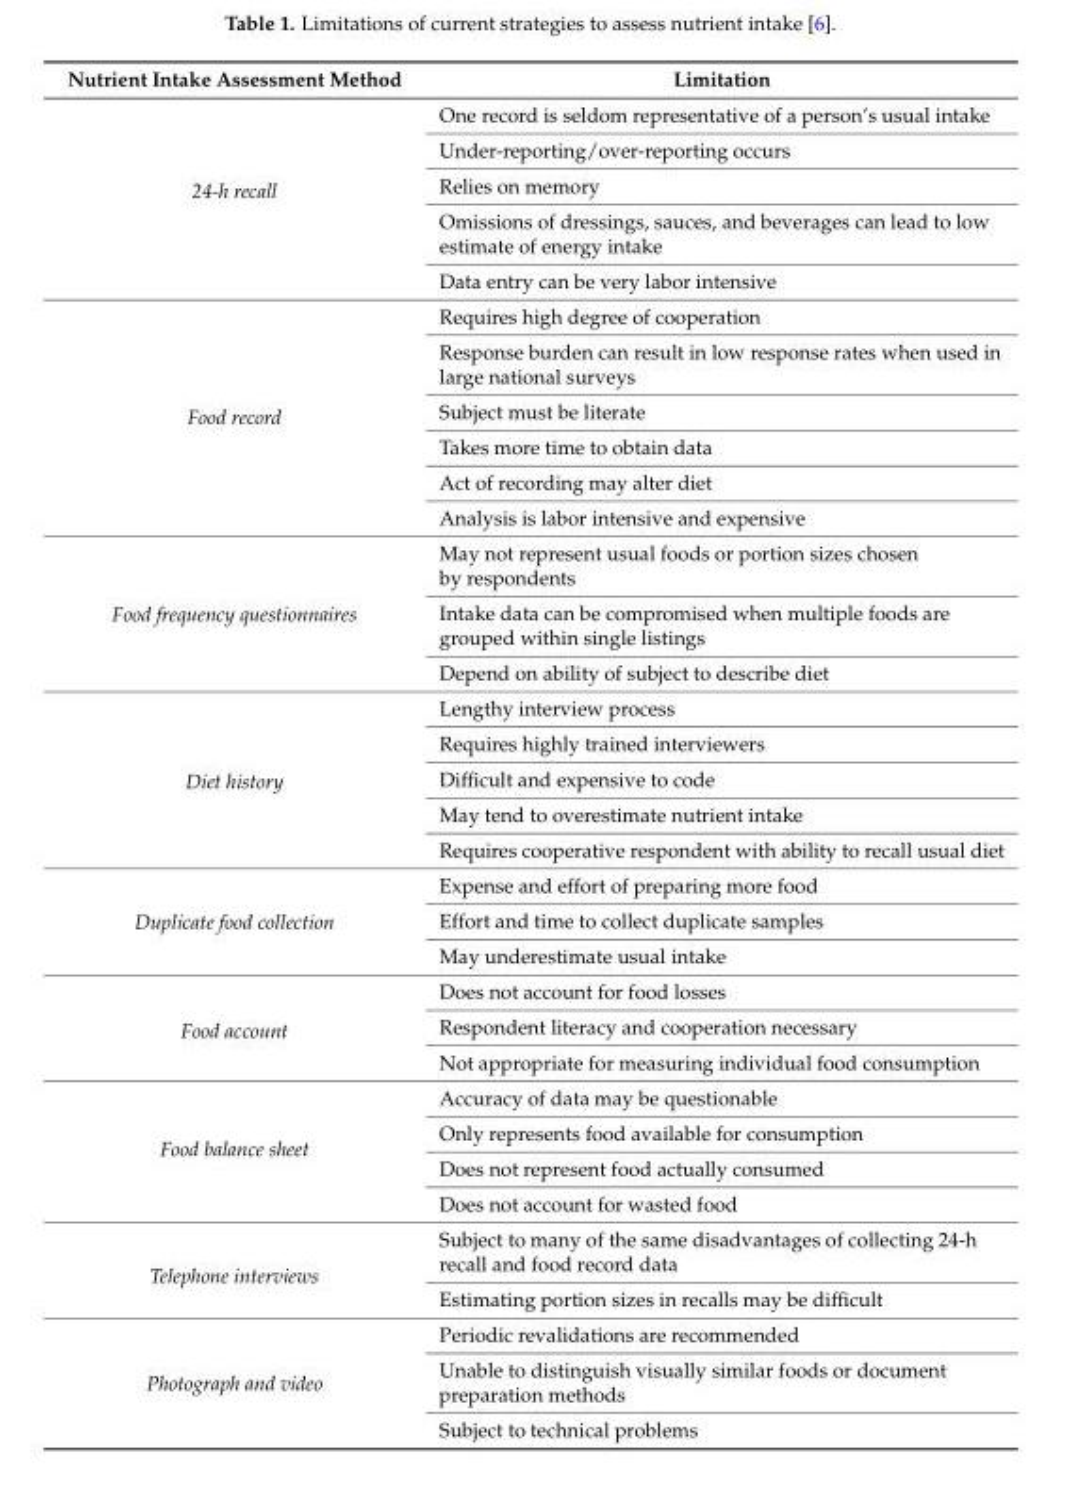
<table><thead><tr><td>Nutrient Intake Assessment Method</td><td>Limitation</td></tr></thead><tbody><tr><td rowspan="5">24-h recall</td><td>One record is seldom representative of a person’s usual intake</td></tr><tr><td>Under-reporting/over-reporting occurs</td></tr><tr><td>Relies on memory</td></tr><tr><td>Omissions of dressings, sauces, and beverages can lead to low estimate of energy intake</td></tr><tr><td>Data entry can be very labor intensive</td></tr><tr><td rowspan="6">Food record</td><td>Requires high degree of cooperation</td></tr><tr><td>Response burden can result in low response rates when used in large national surveys</td></tr><tr><td>Subject must be literate</td></tr><tr><td>Takes more time to obtain data</td></tr><tr><td>Act of recording may alter diet</td></tr><tr><td>Analysis is labor intensive and expensive</td></tr><tr><td rowspan="3">Food frequency questionnaires</td><td>May not represent usual foods or portion sizes chosen by respondents</td></tr><tr><td>Intake data can be compromised when multiple foods are grouped within single listings</td></tr><tr><td>Depend on ability of subject to describe diet</td></tr><tr><td rowspan="5">Diet history</td><td>Lengthy interview process</td></tr><tr><td>Requires highly trained interviewers</td></tr><tr><td>Difficult and expensive to code</td></tr><tr><td>May tend to overestimate nutrient intake</td></tr><tr><td>Requires cooperative respondent with ability to recall usual diet</td></tr><tr><td rowspan="3">Duplicate food collection</td><td>Expense and effort of preparing more food</td></tr><tr><td>Effort and time to collect duplicate samples</td></tr><tr><td>May underestimate usual intake</td></tr><tr><td rowspan="3">Food account</td><td>Does not account for food losses</td></tr><tr><td>Respondent literacy and cooperation necessary</td></tr><tr><td>Not appropriate for measuring individual food consumption</td></tr><tr><td rowspan="4">Food balance sheet</td><td>Accuracy of data may be questionable</td></tr><tr><td>Only represents food available for consumption</td></tr><tr><td>Does not represent food actually consumed</td></tr><tr><td>Does not account for wasted food</td></tr><tr><td rowspan="2">Telephone interviews</td><td>Subject to many of the same disadvantages of collecting 24-h recall and food record data</td></tr><tr><td>Estimating portion sizes in recalls may be difficult</td></tr><tr><td rowspan="3">Photograph and video</td><td>Periodic revalidations are recommended</td></tr><tr><td>Unable to distinguish visually similar foods or document preparation methods</td></tr><tr><td>Subject to technical problems</td></tr></tbody></table>